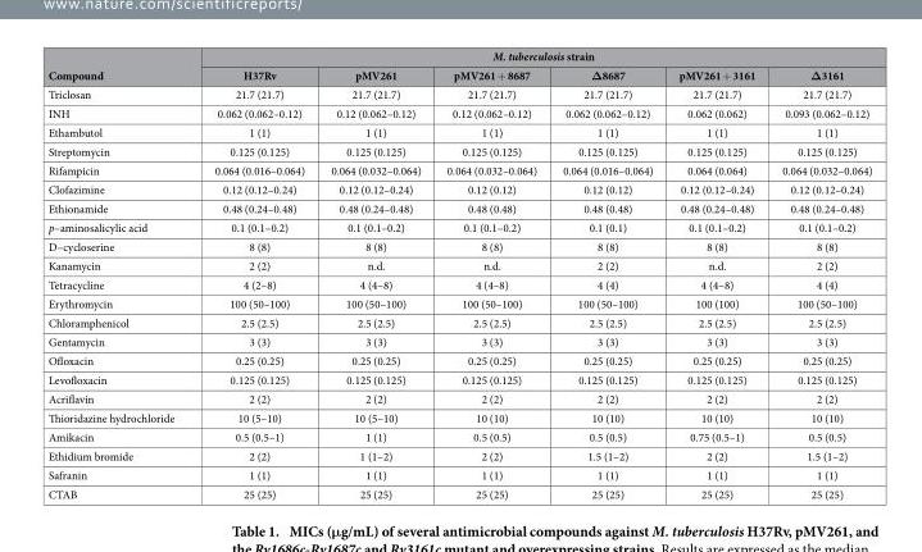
<table><thead><tr><td rowspan="2">Compound</td><td colspan="6">M. tuberculosis strain</td></tr><tr><td>H37Rv</td><td>pMV261</td><td>pMV261 + 8687</td><td>Δ8687</td><td>pMV261 + 3161</td><td>Δ3161</td></tr></thead><tbody><tr><td>Triclosan</td><td>21.7 (21.7)</td><td>21.7 (21.7)</td><td>21.7 (21.7)</td><td>21.7 (21.7)</td><td>21.7 (21.7)</td><td>21.7 (21.7)</td></tr><tr><td>INH</td><td>0.062 (0.062–0.12)</td><td>0.12 (0.062–0.12)</td><td>0.12 (0.062–0.12)</td><td>0.062 (0.062–0.12)</td><td>0.062 (0.062)</td><td>0.093 (0.062–0.12)</td></tr><tr><td>Ethambutol</td><td>1 (1)</td><td>1 (1)</td><td>1 (1)</td><td>1 (1)</td><td>1 (1)</td><td>1 (1)</td></tr><tr><td>Streptomycin</td><td>0.125 (0.125)</td><td>0.125 (0.125)</td><td>0.125 (0.125)</td><td>0.125 (0.125)</td><td>0.125 (0.125)</td><td>0.125 (0.125)</td></tr><tr><td>Rifampicin</td><td>0.064 (0.016–0.064)</td><td>0.064 (0.032–0.064)</td><td>0.064 (0.032–0.064)</td><td>0.064 (0.016–0.064)</td><td>0.064 (0.064)</td><td>0.064 (0.032–0.064)</td></tr><tr><td>Clofazimine</td><td>0.12 (0.12–0.24)</td><td>0.12 (0.12–0.24)</td><td>0.12 (0.12)</td><td>0.12 (0.12)</td><td>0.12 (0.12–0.24)</td><td>0.12 (0.12–0.24)</td></tr><tr><td>Ethionamide</td><td>0.48 (0.24–0.48)</td><td>0.48 (0.24–0.48)</td><td>0.48 (0.48)</td><td>0.48 (0.48)</td><td>0.48 (0.24–0.48)</td><td>0.48 (0.24–0.48)</td></tr><tr><td>p–aminosalicylic acid</td><td>0.1 (0.1–0.2)</td><td>0.1 (0.1–0.2)</td><td>0.1 (0.1–0.2)</td><td>0.1 (0.1)</td><td>0.1 (0.1–0.2)</td><td>0.1 (0.1–0.2)</td></tr><tr><td>D–cycloserine</td><td>8 (8)</td><td>8 (8)</td><td>8 (8)</td><td>8 (8)</td><td>8 (8)</td><td>8 (8)</td></tr><tr><td>Kanamycin</td><td>2 (2)</td><td>n.d.</td><td>n.d.</td><td>2 (2)</td><td>n.d.</td><td>2 (2)</td></tr><tr><td>Tetracycline</td><td>4 (2–8)</td><td>4 (4–8)</td><td>4 (4–8)</td><td>4 (4)</td><td>4 (4–8)</td><td>4 (4)</td></tr><tr><td>Erythromycin</td><td>100 (50–100)</td><td>100 (50–100)</td><td>100 (50–100)</td><td>100 (50–100)</td><td>100 (100)</td><td>100 (50–100)</td></tr><tr><td>Chloramphenicol</td><td>2.5 (2.5)</td><td>2.5 (2.5)</td><td>2.5 (2.5)</td><td>2.5 (2.5)</td><td>2.5 (2.5)</td><td>2.5 (2.5)</td></tr><tr><td>Gentamycin</td><td>3 (3)</td><td>3 (3)</td><td>3 (3)</td><td>3 (3)</td><td>3 (3)</td><td>3 (3)</td></tr><tr><td>Ofloxacin</td><td>0.25 (0.25)</td><td>0.25 (0.25)</td><td>0.25 (0.25)</td><td>0.25 (0.25)</td><td>0.25 (0.25)</td><td>0.25 (0.25)</td></tr><tr><td>Levofloxacin</td><td>0.125 (0.125)</td><td>0.125 (0.125)</td><td>0.125 (0.125)</td><td>0.125 (0.125)</td><td>0.125 (0.125)</td><td>0.125 (0.125)</td></tr><tr><td>Acriflavin</td><td>2 (2)</td><td>2 (2)</td><td>2 (2)</td><td>2 (2)</td><td>2 (2)</td><td>2 (2)</td></tr><tr><td>Thioridazine hydrochloride</td><td>10 (5–10)</td><td>10 (5–10)</td><td>10 (10)</td><td>10 (10)</td><td>10 (10)</td><td>10 (10)</td></tr><tr><td>Amikacin</td><td>0.5 (0.5–1)</td><td>1 (1)</td><td>0.5 (0.5)</td><td>0.5 (0.5)</td><td>0.75 (0.5–1)</td><td>0.5 (0.5)</td></tr><tr><td>Ethidium bromide</td><td>2 (2)</td><td>1 (1–2)</td><td>2 (2)</td><td>1.5 (1–2)</td><td>2 (2)</td><td>1.5 (1–2)</td></tr><tr><td>Safranin</td><td>1 (1)</td><td>1 (1)</td><td>1 (1)</td><td>1 (1)</td><td>1 (1)</td><td>1 (1)</td></tr><tr><td>CTAB</td><td>25 (25)</td><td>25 (25)</td><td>25 (25)</td><td>25 (25)</td><td>25 (25)</td><td>25 (25)</td></tr></tbody></table>